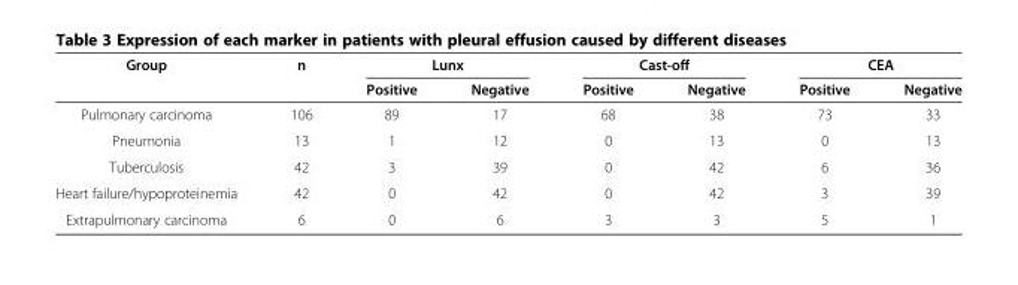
<table><thead><tr><td rowspan="2">Group</td><td rowspan="2">n</td><td colspan="2">Lunx</td><td colspan="2">Cast-off</td><td colspan="2">CEA</td></tr><tr><td>Positive</td><td>Negative</td><td>Positive</td><td>Negative</td><td>Positive</td><td>Negative</td></tr></thead><tbody><tr><td>Pulmonary carcinoma</td><td>106</td><td>89</td><td>17</td><td>68</td><td>38</td><td>73</td><td>33</td></tr><tr><td>Pneumonia</td><td>13</td><td>1</td><td>12</td><td>0</td><td>13</td><td>0</td><td>13</td></tr><tr><td>Tuberculosis</td><td>42</td><td>3</td><td>39</td><td>0</td><td>42</td><td>6</td><td>36</td></tr><tr><td>Heart failure/hypoproteinemia</td><td>42</td><td>0</td><td>42</td><td>0</td><td>42</td><td>3</td><td>39</td></tr><tr><td>Extrapulmonary carcinoma</td><td>6</td><td>0</td><td>6</td><td>3</td><td>3</td><td>5</td><td>1</td></tr></tbody></table>